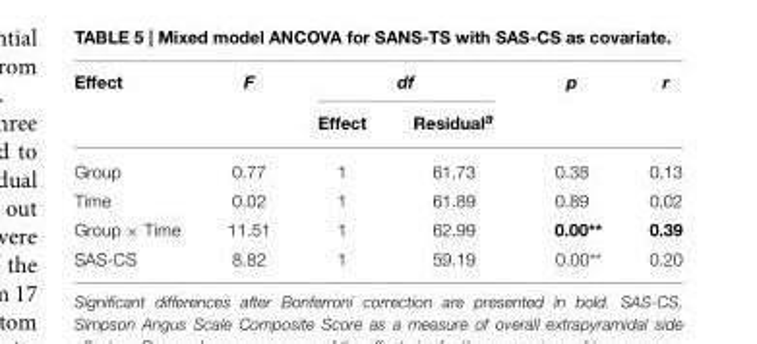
<table><thead><tr><td rowspan="2">Effect</td><td rowspan="2">F</td><td colspan="2">df</td><td rowspan="2">p</td><td rowspan="2">r</td></tr><tr><td>Effect</td><td>Residual<sup>a</sup></td></tr></thead><tbody><tr><td>Group</td><td>0.77</td><td>1</td><td>61.73</td><td>0.38</td><td>0.13</td></tr><tr><td>Time</td><td>0.02</td><td>1</td><td>61.89</td><td>0.89</td><td>0.02</td></tr><tr><td>Group × Time</td><td>11.51</td><td>1</td><td>62.99</td><td>0.00**</td><td>0.39</td></tr><tr><td>SAS-CS</td><td>8.82</td><td>1</td><td>59.19</td><td>0.00**</td><td>0.20</td></tr></tbody></table>